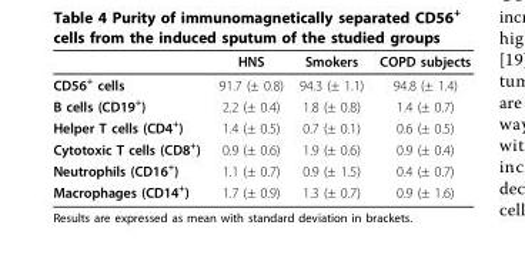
<table><thead><tr><td></td><td>HNS</td><td>Smokers</td><td>COPD subjects</td></tr></thead><tbody><tr><td>CD56<sup>+</sup> cells</td><td>91.7 (± 0.8)</td><td>94.3 (± 1.1)</td><td>94.8 (± 1.4)</td></tr><tr><td>B cells (CD19<sup>+</sup>)</td><td>2.2 (± 0.4)</td><td>1.8 (± 0.8)</td><td>1.4 (± 0.7)</td></tr><tr><td>Helper T cells (CD4<sup>+</sup>)</td><td>1.4 (± 0.5)</td><td>0.7 (± 0.1)</td><td>0.6 (± 0.5)</td></tr><tr><td>Cytotoxic T cells (CD8<sup>+</sup>)</td><td>0.9 (± 0.6)</td><td>1.9 (± 0.6)</td><td>0.9 (± 0.4)</td></tr><tr><td>Neutrophils (CD16<sup>+</sup>)</td><td>1.1 (± 0.7)</td><td>0.9 (± 1.5)</td><td>0.4 (± 0.7)</td></tr><tr><td>Macrophages (CD14<sup>+</sup>)</td><td>1.7 (± 0.9)</td><td>1.3 (± 0.7)</td><td>0.9 (± 1.6)</td></tr></tbody></table>